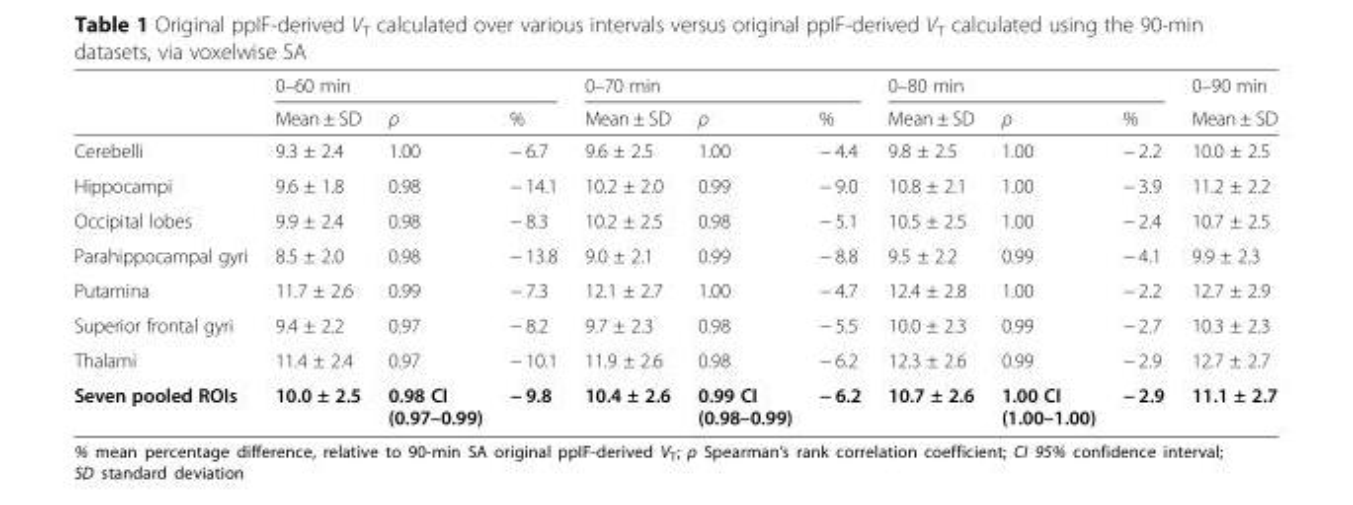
<table><thead><tr><td rowspan="2"></td><td colspan="3">0–60 min</td><td colspan="3">0–70 min</td><td colspan="3">0–80 min</td><td rowspan="2">0–90 min Mean ± SD</td></tr><tr><td>Mean ± SD</td><td>ρ</td><td>%</td><td>Mean ± SD</td><td>ρ</td><td>%</td><td>Mean ± SD</td><td>ρ</td><td>%</td></tr></thead><tbody><tr><td>Cerebelli</td><td>9.3 ± 2.4</td><td>1.00</td><td>− 6.7</td><td>9.6 ± 2.5</td><td>1.00</td><td>− 4.4</td><td>9.8 ± 2.5</td><td>1.00</td><td>− 2.2</td><td>10.0 ± 2.5</td></tr><tr><td>Hippocampi</td><td>9.6 ± 1.8</td><td>0.98</td><td>− 14.1</td><td>10.2 ± 2.0</td><td>0.99</td><td>− 9.0</td><td>10.8 ± 2.1</td><td>1.00</td><td>− 3.9</td><td>11.2 ± 2.2</td></tr><tr><td>Occipital lobes</td><td>9.9 ± 2.4</td><td>0.98</td><td>− 8.3</td><td>10.2 ± 2.5</td><td>0.98</td><td>− 5.1</td><td>10.5 ± 2.5</td><td>1.00</td><td>− 2.4</td><td>10.7 ± 2.5</td></tr><tr><td>Parahippocampal gyri</td><td>8.5 ± 2.0</td><td>0.98</td><td>− 13.8</td><td>9.0 ± 2.1</td><td>0.99</td><td>− 8.8</td><td>9.5 ± 2.2</td><td>0.99</td><td>− 4.1</td><td>9.9 ± 2.3</td></tr><tr><td>Putamina</td><td>11.7 ± 2.6</td><td>0.99</td><td>− 7.3</td><td>12.1 ± 2.7</td><td>1.00</td><td>− 4.7</td><td>12.4 ± 2.8</td><td>1.00</td><td>− 2.2</td><td>12.7 ± 2.9</td></tr><tr><td>Superior frontal gyri</td><td>9.4 ± 2.2</td><td>0.97</td><td>− 8.2</td><td>9.7 ± 2.3</td><td>0.98</td><td>− 5.5</td><td>10.0 ± 2.3</td><td>0.99</td><td>− 2.7</td><td>10.3 ± 2.3</td></tr><tr><td>Thalami</td><td>11.4 ± 2.4</td><td>0.97</td><td>− 10.1</td><td>11.9 ± 2.6</td><td>0.98</td><td>− 6.2</td><td>12.3 ± 2.6</td><td>0.99</td><td>− 2.9</td><td>12.7 ± 2.7</td></tr><tr><td>Seven pooled ROIs</td><td>10.0 ± 2.5</td><td>0.98 CI (0.97–0.99)</td><td>− 9.8</td><td>10.4 ± 2.6</td><td>0.99 CI (0.98–0.99)</td><td>− 6.2</td><td>10.7 ± 2.6</td><td>1.00 CI (1.00–1.00)</td><td>− 2.9</td><td>11.1 ± 2.7</td></tr></tbody></table>